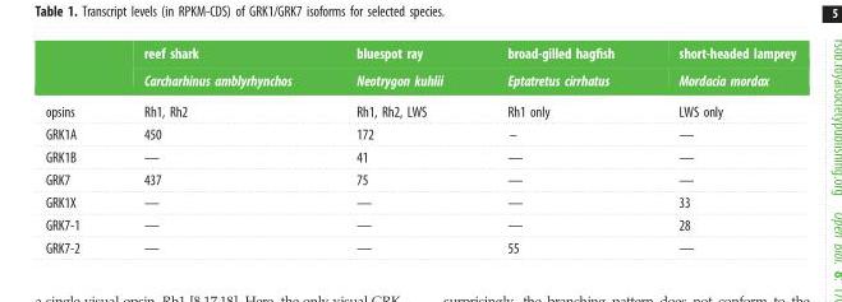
<table><thead><tr><td rowspan="2"></td><td rowspan="2">reef shark Carcharhinus amblyrhynchos</td><td rowspan="2">bluespot ray Neotrygon kuhlii</td><td rowspan="2">broad-gilled hagfish Eptatretus cirrhatus</td><td rowspan="2">short-headed lamprey Mordacia mordax</td></tr><tr></tr></thead><tbody><tr><td>opsins</td><td>Rh1, Rh2</td><td>Rh1, Rh2, LWS</td><td>Rh1 only</td><td>LWS only</td></tr><tr><td>GRK1A</td><td>450</td><td>172</td><td>–</td><td>—</td></tr><tr><td>GRK1B</td><td>—</td><td>41</td><td>—</td><td>—</td></tr><tr><td>GRK7</td><td>437</td><td>75</td><td>—</td><td>—</td></tr><tr><td>GRK1X</td><td>—</td><td>—</td><td>—</td><td>33</td></tr><tr><td>GRK7-1</td><td>—</td><td>—</td><td>—</td><td>28</td></tr><tr><td>GRK7-2</td><td>—</td><td>—</td><td>55</td><td>—</td></tr></tbody></table>